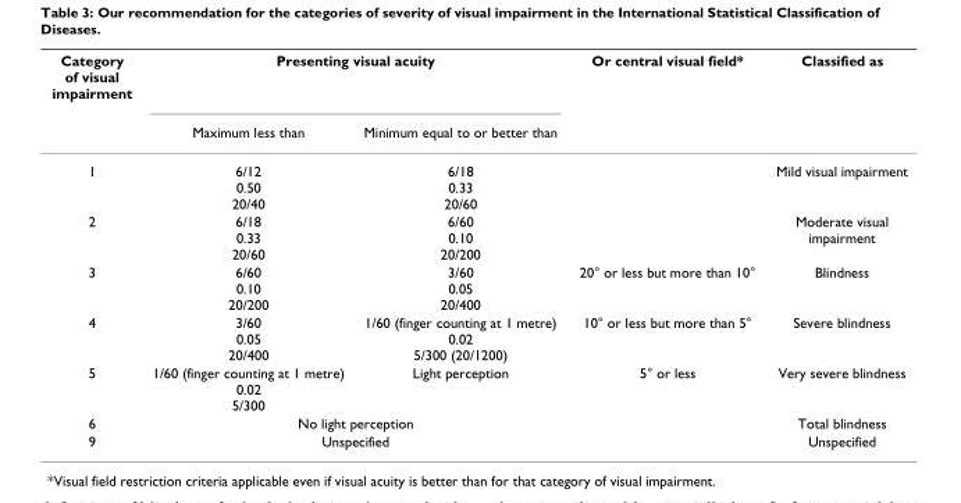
<table><thead><tr><td rowspan="2">Category of visual impairment</td><td colspan="2">Presenting visual acuity</td><td rowspan="2">Or central visual field*</td><td rowspan="2">Classified as</td></tr><tr><td>Maximum less than</td><td>Minimum equal to or better than</td></tr></thead><tbody><tr><td>1</td><td>6/12 0.50 20/40</td><td>6/18 0.33 20/60</td><td></td><td>Mild visual impairment</td></tr><tr><td>2</td><td>6/18 0.33 20/60</td><td>6/60 0.10 20/200</td><td></td><td>Moderate visual impairment</td></tr><tr><td>3</td><td>6/60 0.10 20/200</td><td>3/60 0.05 20/400</td><td>20° or less but more than 10°</td><td>Blindness</td></tr><tr><td>4</td><td>3/60 0.05 20/400</td><td>1/60 (finger counting at 1 metre) 0.02 5/300 (20/1200)</td><td>10° or less but more than 5°</td><td>Severe blindness</td></tr><tr><td>5</td><td>1/60 (finger counting at 1 metre) 0.02 5/300</td><td>Light perception</td><td>5° or less</td><td>Very severe blindness</td></tr><tr><td>6</td><td colspan="2">No light perception</td><td></td><td>Total blindness</td></tr><tr><td>9</td><td colspan="2">Unspecified</td><td></td><td>Unspecified</td></tr></tbody></table>